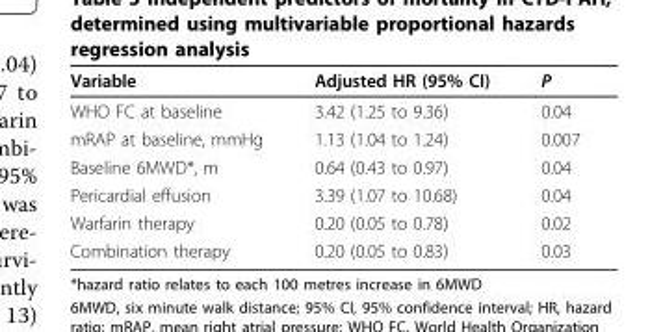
<table><thead><tr><td>Variable</td><td>Adjusted HR (95% CI)</td><td>P</td></tr></thead><tbody><tr><td>WHO FC at baseline</td><td>3.42 (1.25 to 9.36)</td><td>0.04</td></tr><tr><td>mRAP at baseline, mmHg</td><td>1.13 (1.04 to 1.24)</td><td>0.007</td></tr><tr><td>Baseline 6MWD*, m</td><td>0.64 (0.43 to 0.97)</td><td>0.04</td></tr><tr><td>Pericardial effusion</td><td>3.39 (1.07 to 10.68)</td><td>0.04</td></tr><tr><td>Warfarin therapy</td><td>0.20 (0.05 to 0.78)</td><td>0.02</td></tr><tr><td>Combination therapy</td><td>0.20 (0.05 to 0.83)</td><td>0.03</td></tr></tbody></table>